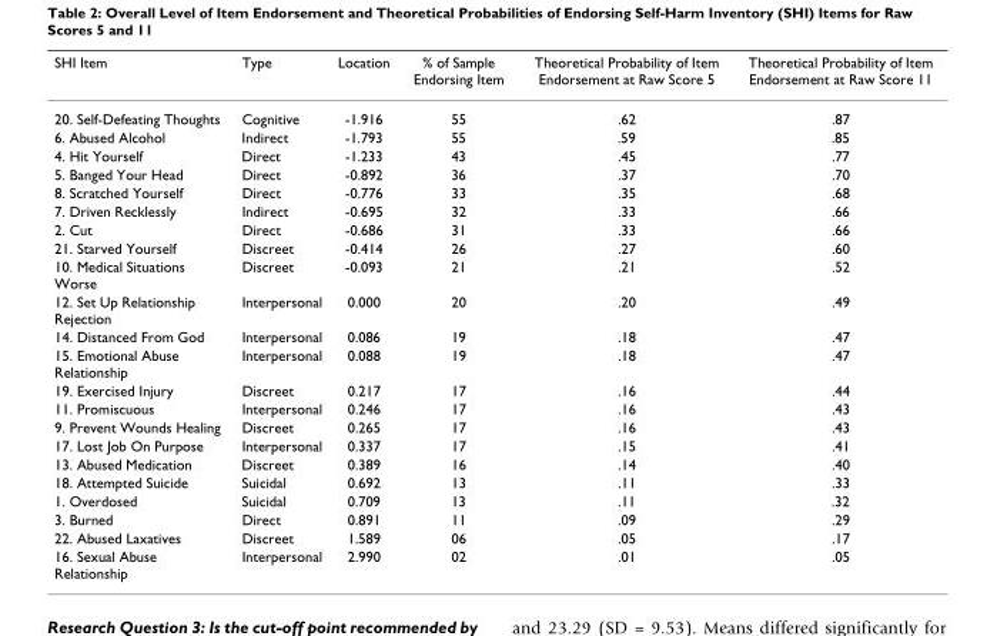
<table><thead><tr><td>SHI Item</td><td>Type</td><td>Location</td><td>% of Sample Endorsing Item</td><td>Theoretical Probability of Item Endorsement at Raw Score 5</td><td>Theoretical Probability of Item Endorsement at Raw Score 11</td></tr></thead><tbody><tr><td>20. Self-Defeating Thoughts</td><td>Cognitive</td><td>-1.916</td><td>55</td><td>.62</td><td>.87</td></tr><tr><td>6. Abused Alcohol</td><td>Indirect</td><td>-1.793</td><td>55</td><td>.59</td><td>.85</td></tr><tr><td>4. Hit Yourself</td><td>Direct</td><td>-1.233</td><td>43</td><td>.45</td><td>.77</td></tr><tr><td>5. Banged Your Head</td><td>Direct</td><td>-0.892</td><td>36</td><td>.37</td><td>.70</td></tr><tr><td>8. Scratched Yourself</td><td>Direct</td><td>-0.776</td><td>33</td><td>.35</td><td>.68</td></tr><tr><td>7. Driven Recklessly</td><td>Indirect</td><td>-0.695</td><td>32</td><td>.33</td><td>.66</td></tr><tr><td>2. Cut</td><td>Direct</td><td>-0.686</td><td>31</td><td>.33</td><td>.66</td></tr><tr><td>21. Starved Yourself</td><td>Discreet</td><td>-0.414</td><td>26</td><td>.27</td><td>.60</td></tr><tr><td>10. Medical Situations Worse</td><td>Discreet</td><td>-0.093</td><td>21</td><td>.21</td><td>.52</td></tr><tr><td>12. Set Up Relationship Rejection</td><td>Interpersonal</td><td>0.000</td><td>20</td><td>.20</td><td>.49</td></tr><tr><td>14. Distanced From God</td><td>Interpersonal</td><td>0.086</td><td>19</td><td>.18</td><td>.47</td></tr><tr><td>15. Emotional Abuse Relationship</td><td>Interpersonal</td><td>0.088</td><td>19</td><td>.18</td><td>.47</td></tr><tr><td>19. Exercised Injury</td><td>Discreet</td><td>0.217</td><td>17</td><td>.16</td><td>.44</td></tr><tr><td>11. Promiscuous</td><td>Interpersonal</td><td>0.246</td><td>17</td><td>.16</td><td>.43</td></tr><tr><td>9. Prevent Wounds Healing</td><td>Discreet</td><td>0.265</td><td>17</td><td>.16</td><td>.43</td></tr><tr><td>17. Lost Job On Purpose</td><td>Interpersonal</td><td>0.337</td><td>17</td><td>.15</td><td>.41</td></tr><tr><td>13. Abused Medication</td><td>Discreet</td><td>0.389</td><td>16</td><td>.14</td><td>.40</td></tr><tr><td>18. Attempted Suicide</td><td>Suicidal</td><td>0.692</td><td>13</td><td>.11</td><td>.33</td></tr><tr><td>1. Overdosed</td><td>Suicidal</td><td>0.709</td><td>13</td><td>.11</td><td>.32</td></tr><tr><td>3. Burned</td><td>Direct</td><td>0.891</td><td>11</td><td>.09</td><td>.29</td></tr><tr><td>22. Abused Laxatives</td><td>Discreet</td><td>1.589</td><td>06</td><td>.05</td><td>.17</td></tr><tr><td>16. Sexual Abuse Relationship</td><td>Interpersonal</td><td>2.990</td><td>02</td><td>.01</td><td>.05</td></tr></tbody></table>